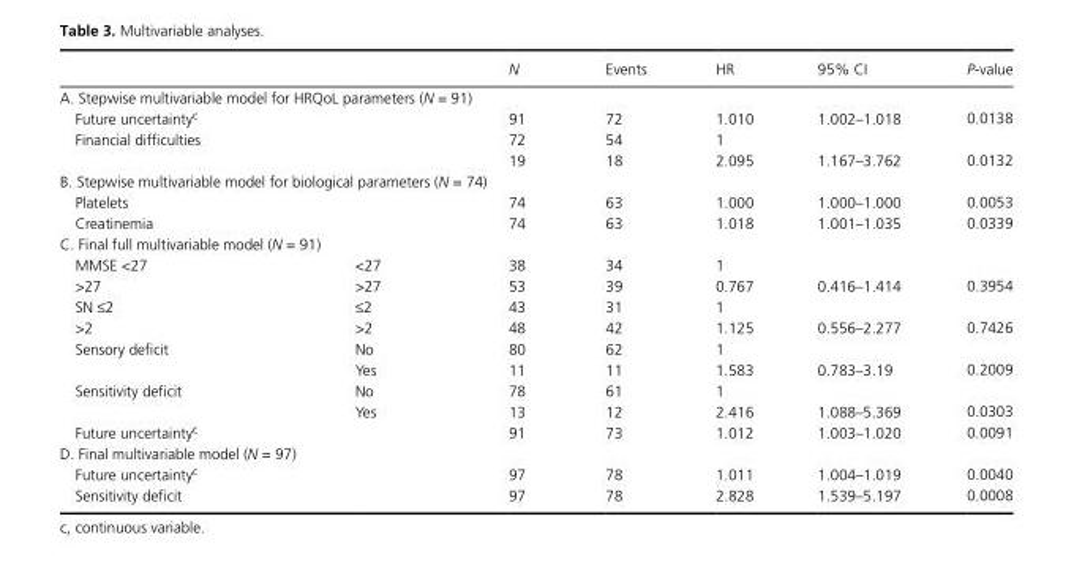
<table><thead><tr><td></td><td></td><td>N</td><td>Events</td><td>HR</td><td>95% CI</td><td>P- value</td></tr></thead><tbody><tr><td colspan="7">A. Stepwise multivariable model for HRQoL parameters (N = 91)</td></tr><tr><td>Future uncertainty<sup>c</sup></td><td></td><td>91</td><td>72</td><td>1.010</td><td>1.002–1.018</td><td>0.0138</td></tr><tr><td rowspan="2">Financial difficulties</td><td></td><td>72</td><td>54</td><td>1</td><td></td><td></td></tr><tr><td></td><td>19</td><td>18</td><td>2.095</td><td>1.167–3.762</td><td>0.0132</td></tr><tr><td colspan="7">B. Stepwise multivariable model for biological parameters (N = 74)</td></tr><tr><td>Platelets</td><td></td><td>74</td><td>63</td><td>1.000</td><td>1.000–1.000</td><td>0.0053</td></tr><tr><td>Creatinemia</td><td></td><td>74</td><td>63</td><td>1.018</td><td>1.001–1.035</td><td>0.0339</td></tr><tr><td colspan="7">C. Final full multivariable model (N = 91)</td></tr><tr><td>MMSE &lt;27</td><td>&lt;27</td><td>38</td><td>34</td><td>1</td><td></td><td></td></tr><tr><td>&gt;27</td><td>&gt;27</td><td>53</td><td>39</td><td>0.767</td><td>0.416–1.414</td><td>0.3954</td></tr><tr><td>SN ≤2</td><td>≤2</td><td>43</td><td>31</td><td>1</td><td></td><td></td></tr><tr><td>&gt;2</td><td>&gt;2</td><td>48</td><td>42</td><td>1.125</td><td>0.556–2.277</td><td>0.7426</td></tr><tr><td rowspan="2">Sensory deficit</td><td>No</td><td>80</td><td>62</td><td>1</td><td></td><td></td></tr><tr><td>Yes</td><td>11</td><td>11</td><td>1.583</td><td>0.783–3.19</td><td>0.2009</td></tr><tr><td rowspan="2">Sensitivity deficit</td><td>No</td><td>78</td><td>61</td><td>1</td><td></td><td></td></tr><tr><td>Yes</td><td>13</td><td>12</td><td>2.416</td><td>1.088–5.369</td><td>0.0303</td></tr><tr><td>Future uncertainty<sup>c</sup></td><td></td><td>91</td><td>73</td><td>1.012</td><td>1.003–1.020</td><td>0.0091</td></tr><tr><td colspan="7">D. Final multivariable model (N = 97)</td></tr><tr><td>Future uncertainty<sup>c</sup></td><td></td><td>97</td><td>78</td><td>1.011</td><td>1.004–1.019</td><td>0.0040</td></tr><tr><td>Sensitivity deficit</td><td></td><td>97</td><td>78</td><td>2.828</td><td>1.539–5.197</td><td>0.0008</td></tr></tbody></table>